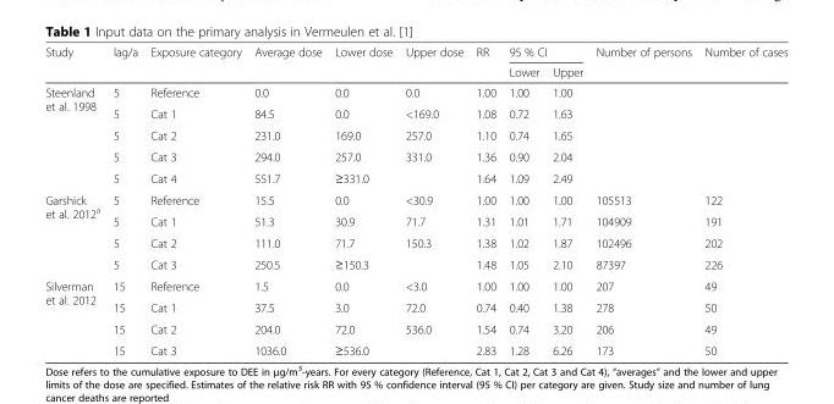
<table><thead><tr><td rowspan="2">Study</td><td rowspan="2">lag/a</td><td rowspan="2">Exposure category</td><td rowspan="2">Average dose</td><td rowspan="2">Lower dose</td><td rowspan="2">Upper dose</td><td rowspan="2">RR</td><td colspan="2">95 % CI</td><td rowspan="2">Number of persons</td><td rowspan="2">Number of cases</td></tr><tr><td>Lower</td><td>Upper</td></tr></thead><tbody><tr><td rowspan="5">Steenland et al. 1998</td><td>5</td><td>Reference</td><td>0.0</td><td>0.0</td><td>0.0</td><td>1.00</td><td>1.00</td><td>1.00</td><td></td><td></td></tr><tr><td>5</td><td>Cat 1</td><td>84.5</td><td>0.0</td><td>&lt;169.0</td><td>1.08</td><td>0.72</td><td>1.63</td><td></td><td></td></tr><tr><td>5</td><td>Cat 2</td><td>231.0</td><td>169.0</td><td>257.0</td><td>1.10</td><td>0.74</td><td>1.65</td><td></td><td></td></tr><tr><td>5</td><td>Cat 3</td><td>294.0</td><td>257.0</td><td>331.0</td><td>1.36</td><td>0.90</td><td>2.04</td><td></td><td></td></tr><tr><td>5</td><td>Cat 4</td><td>551.7</td><td>≥331.0</td><td></td><td>1.64</td><td>1.09</td><td>2.49</td><td></td><td></td></tr><tr><td rowspan="4">Garshick et al. 2012<sup>a</sup></td><td>5</td><td>Reference</td><td>15.5</td><td>0.0</td><td>&lt;30.9</td><td>1.00</td><td>1.00</td><td>1.00</td><td>105513</td><td>122</td></tr><tr><td>5</td><td>Cat 1</td><td>51.3</td><td>30.9</td><td>71.7</td><td>1.31</td><td>1.01</td><td>1.71</td><td>104909</td><td>191</td></tr><tr><td>5</td><td>Cat 2</td><td>111.0</td><td>71.7</td><td>150.3</td><td>1.38</td><td>1.02</td><td>1.87</td><td>102496</td><td>202</td></tr><tr><td>5</td><td>Cat 3</td><td>250.5</td><td>≥150.3</td><td></td><td>1.48</td><td>1.05</td><td>2.10</td><td>87397</td><td>226</td></tr><tr><td rowspan="4">Silverman et al. 2012</td><td>15</td><td>Reference</td><td>1.5</td><td>0.0</td><td>&lt;3.0</td><td>1.00</td><td>1.00</td><td>1.00</td><td>207</td><td>49</td></tr><tr><td>15</td><td>Cat 1</td><td>37.5</td><td>3.0</td><td>72.0</td><td>0.74</td><td>0.40</td><td>1.38</td><td>278</td><td>50</td></tr><tr><td>15</td><td>Cat 2</td><td>204.0</td><td>72.0</td><td>536.0</td><td>1.54</td><td>0.74</td><td>3.20</td><td>206</td><td>49</td></tr><tr><td>15</td><td>Cat 3</td><td>1036.0</td><td>≥536.0</td><td></td><td>2.83</td><td>1.28</td><td>6.26</td><td>173</td><td>50</td></tr></tbody></table>